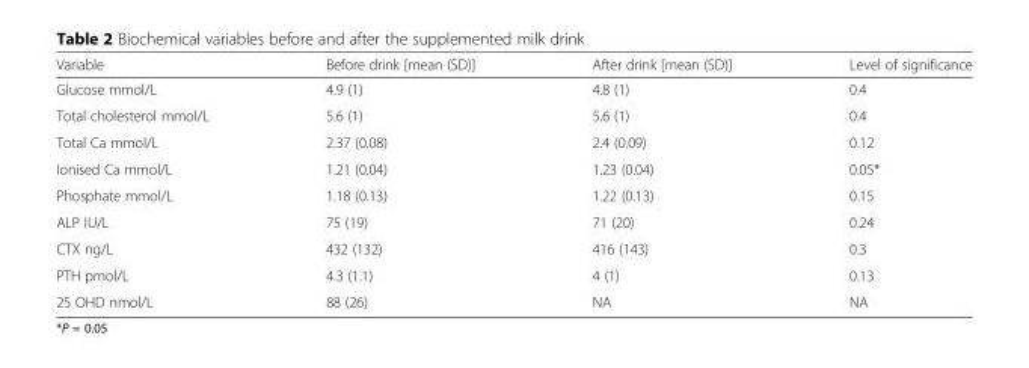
<table><thead><tr><td>Variable</td><td>Before drink [mean (SD)]</td><td>After drink [mean (SD)]</td><td>Level of significance</td></tr></thead><tbody><tr><td>Glucose mmol/L</td><td>4.9 (1)</td><td>4.8 (1)</td><td>0.4</td></tr><tr><td>Total cholesterol mmol/L</td><td>5.6 (1)</td><td>5.6 (1)</td><td>0.4</td></tr><tr><td>Total Ca mmol/L</td><td>2.37 (0.08)</td><td>2.4 (0.09)</td><td>0.12</td></tr><tr><td>Ionised Ca mmol/L</td><td>1.21 (0.04)</td><td>1.23 (0.04)</td><td>0.05*</td></tr><tr><td>Phosphate mmol/L</td><td>1.18 (0.13)</td><td>1.22 (0.13)</td><td>0.15</td></tr><tr><td>ALP IU/L</td><td>75 (19)</td><td>71 (20)</td><td>0.24</td></tr><tr><td>CTX ng/L</td><td>432 (132)</td><td>416 (143)</td><td>0.3</td></tr><tr><td>PTH pmol/L</td><td>4.3 (1.1)</td><td>4 (1)</td><td>0.13</td></tr><tr><td>25 OHD nmol/L</td><td>88 (26)</td><td>NA</td><td>NA</td></tr></tbody></table>